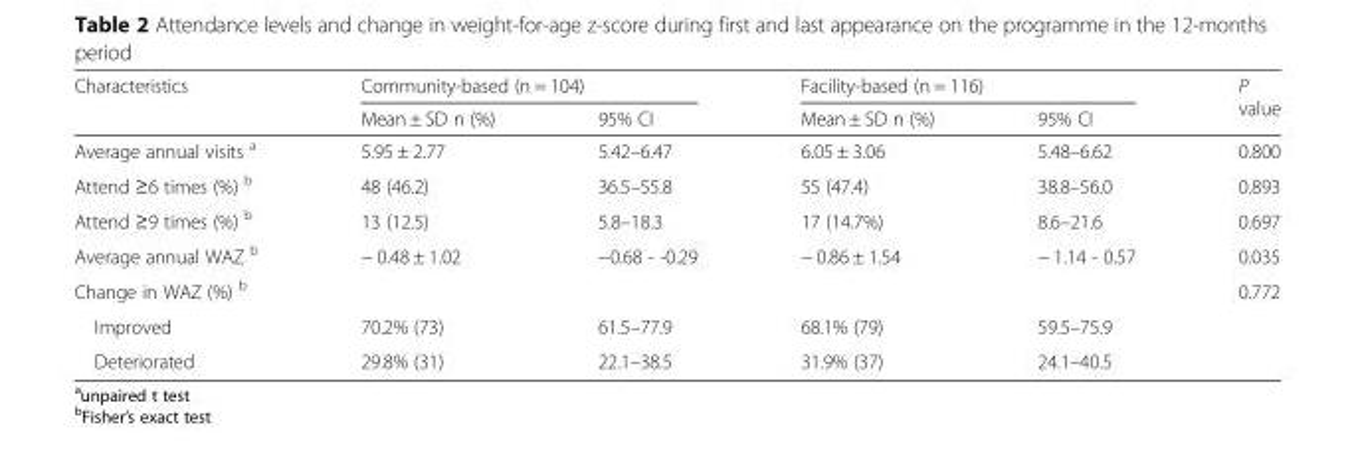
<table><thead><tr><td rowspan="2">Characteristics</td><td colspan="2">Community-based (n = 104)</td><td colspan="2">Facility-based (n = 116)</td><td rowspan="2">P value</td></tr><tr><td>Mean ± SD n (%)</td><td>95% CI</td><td>Mean ± SD n (%)</td><td>95% CI</td></tr></thead><tbody><tr><td>Average annual visits <sup>a</sup></td><td>5.95 ± 2.77</td><td>5.42–6.47</td><td>6.05 ± 3.06</td><td>5.48–6.62</td><td>0.800</td></tr><tr><td>Attend ≥6 times (%) <sup>b</sup></td><td>48 (46.2)</td><td>36.5–55.8</td><td>55 (47.4)</td><td>38.8–56.0</td><td>0.893</td></tr><tr><td>Attend ≥9 times (%) <sup>b</sup></td><td>13 (12.5)</td><td>5.8–18.3</td><td>17 (14.7%)</td><td>8.6–21.6</td><td>0.697</td></tr><tr><td>Average annual WAZ <sup>b</sup></td><td>− 0.48 ± 1.02</td><td>−0.68 - -0.29</td><td>− 0.86 ± 1.54</td><td>− 1.14 - 0.57</td><td>0.035</td></tr><tr><td>Change in WAZ (%) <sup>b</sup></td><td></td><td></td><td></td><td></td><td>0.772</td></tr><tr><td>Improved</td><td>70.2% (73)</td><td>61.5–77.9</td><td>68.1% (79)</td><td>59.5–75.9</td><td></td></tr><tr><td>Deteriorated</td><td>29.8% (31)</td><td>22.1–38.5</td><td>31.9% (37)</td><td>24.1–40.5</td><td></td></tr></tbody></table>